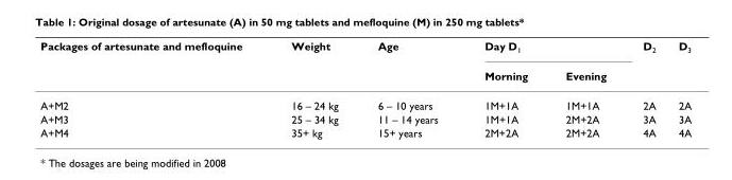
<table><thead><tr><td rowspan="2">Packages of artesunate and mefloquine</td><td rowspan="2">Weight</td><td rowspan="2">Age</td><td colspan="2">Day D<sub>1</sub></td><td rowspan="2">D<sub>2</sub></td><td rowspan="2">D<sub>3</sub></td></tr><tr><td>Morning</td><td>Evening</td></tr></thead><tbody><tr><td>A+M2</td><td>16 – 24 kg</td><td>6 – 10 years</td><td>1M+1A</td><td>1M+1A</td><td>2A</td><td>2A</td></tr><tr><td>A+M3</td><td>25 – 34 kg</td><td>11 – 14 years</td><td>1M+1A</td><td>2M+2A</td><td>3A</td><td>3A</td></tr><tr><td>A+M4</td><td>35+ kg</td><td>15+ years</td><td>2M+2A</td><td>2M+2A</td><td>4A</td><td>4A</td></tr></tbody></table>